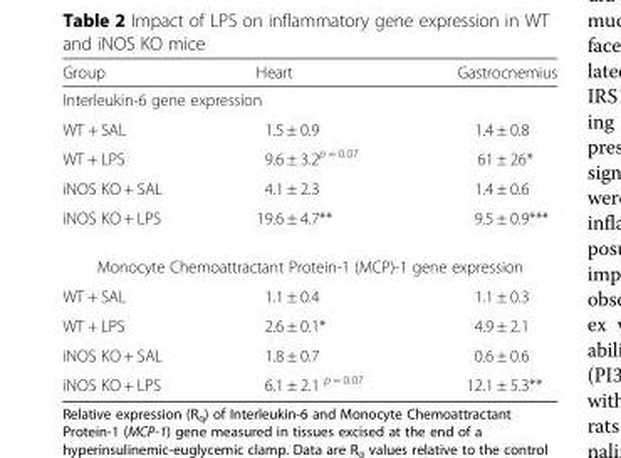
<table><thead><tr><td>Group</td><td>Heart</td><td>Gastrocnemius</td></tr></thead><tbody><tr><td colspan="3">Interleukin-6 gene expression</td></tr><tr><td>WT + SAL</td><td>1.5 ± 0.9</td><td>1.4 ± 0.8</td></tr><tr><td>WT + LPS</td><td>9.6 ± 3.2<sup>p = 0.07</sup></td><td>61 ± 26*</td></tr><tr><td>iNOS KO + SAL</td><td>4.1 ± 2.3</td><td>1.4 ± 0.6</td></tr><tr><td>iNOS KO + LPS</td><td>19.6 ± 4.7**</td><td>9.5 ± 0.9***</td></tr><tr><td colspan="3">Monocyte Chemoattractant Protein-1 (MCP)-1 gene expression</td></tr><tr><td>WT + SAL</td><td>1.1 ± 0.4</td><td>1.1 ± 0.3</td></tr><tr><td>WT + LPS</td><td>2.6 ± 0.1*</td><td>4.9 ± 2.1</td></tr><tr><td>iNOS KO + SAL</td><td>1.8 ± 0.7</td><td>0.6 ± 0.6</td></tr><tr><td>iNOS KO + LPS</td><td>6.1 ± 2.1 <sup>p = 0.07</sup></td><td>12.1 ± 5.3**</td></tr></tbody></table>